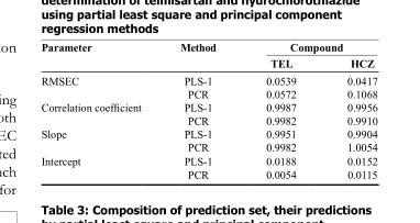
<table><thead><tr><td rowspan="2">Parameter</td><td rowspan="2">Method</td><td colspan="2">Compound</td></tr><tr><td>TEL</td><td>HCZ</td></tr></thead><tbody><tr><td rowspan="2">RMSEC</td><td>PLS-1</td><td>0.0539</td><td>0.0417</td></tr><tr><td>PCR</td><td>0.0572</td><td>0.1068</td></tr><tr><td rowspan="2">Correlation coefficient</td><td>PLS-1</td><td>0.9987</td><td>0.9956</td></tr><tr><td>PCR</td><td>0.9982</td><td>0.9910</td></tr><tr><td rowspan="2">Slope</td><td>PLS-1</td><td>0.9951</td><td>0.9904</td></tr><tr><td>PCR</td><td>0.9982</td><td>1.0054</td></tr><tr><td rowspan="2">Intercept</td><td>PLS-1</td><td>0.0188</td><td>0.0152</td></tr><tr><td>PCR</td><td>0.0054</td><td>0.0115</td></tr></tbody></table>